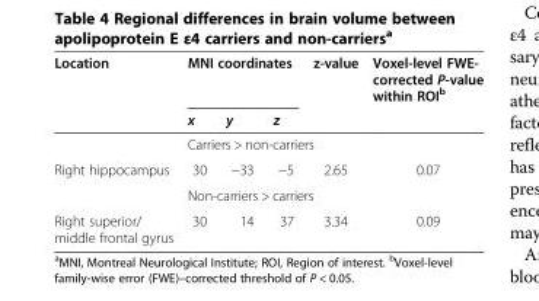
<table><thead><tr><td rowspan="2">Location</td><td colspan="3">MNI coordinates</td><td rowspan="2">z-value</td><td rowspan="2">Voxel-level FWE- corrected P-value within ROI<sup>b</sup></td></tr><tr><td>x</td><td>y</td><td>z</td></tr></thead><tbody><tr><td></td><td colspan="5">Carriers &gt; non-carriers</td></tr><tr><td rowspan="2">Right hippocampus</td><td>30</td><td>−33</td><td>−5</td><td>2.65</td><td>0.07</td></tr><tr><td colspan="5">Non-carriers &gt; carriers</td></tr><tr><td>Right superior/ middle frontal gyrus</td><td>30</td><td>14</td><td>37</td><td>3.34</td><td>0.09</td></tr></tbody></table>